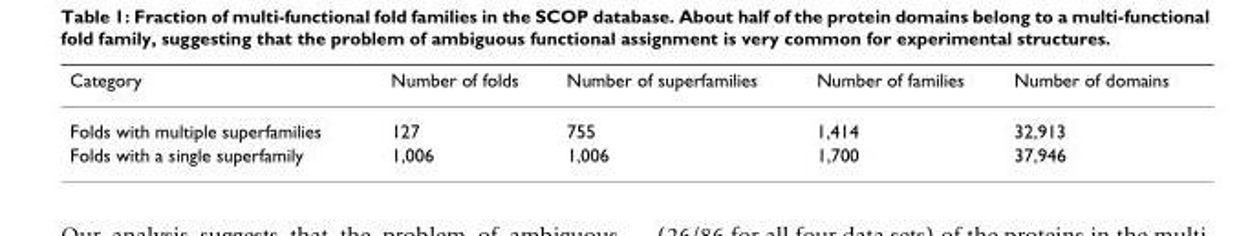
<table><thead><tr><td>Category</td><td>Number of folds</td><td>Number of superfamilies</td><td>Number of families</td><td>Number of domains</td></tr></thead><tbody><tr><td>Folds with multiple superfamilies</td><td>127</td><td>755</td><td>1,414</td><td>32,913</td></tr><tr><td>Folds with a single superfamily</td><td>1,006</td><td>1,006</td><td>1,700</td><td>37,946</td></tr></tbody></table>